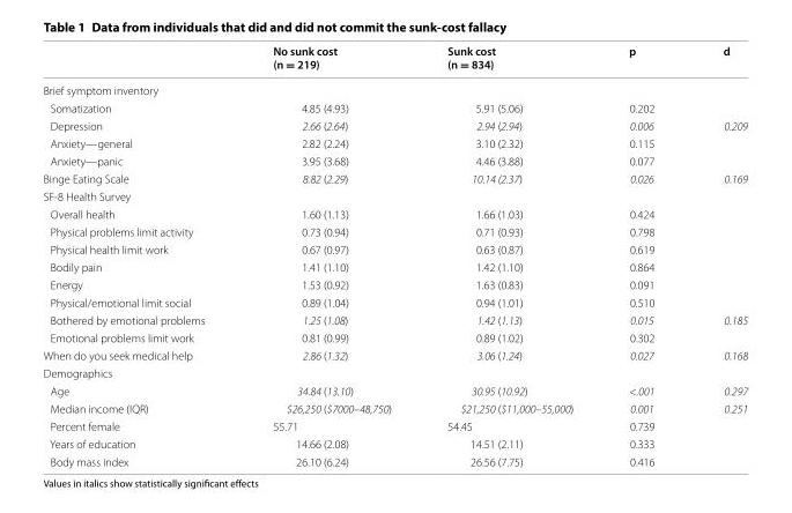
<table><thead><tr><td></td><td>No sunk cost (n = 219)</td><td>Sunk cost (n = 834)</td><td>p</td><td>d</td></tr></thead><tbody><tr><td colspan="5">Brief symptom inventory</td></tr><tr><td>Somatization</td><td>4.85 (4.93)</td><td>5.91 (5.06)</td><td>0.202</td><td></td></tr><tr><td>Depression</td><td>2.66 (2.64)</td><td>2.94 (2.94)</td><td>0.006</td><td>0.209</td></tr><tr><td>Anxiety—general</td><td>2.82 (2.24)</td><td>3.10 (2.32)</td><td>0.115</td><td></td></tr><tr><td>Anxiety—panic</td><td>3.95 (3.68)</td><td>4.46 (3.88)</td><td>0.077</td><td></td></tr><tr><td>Binge Eating Scale</td><td>8.82 (2.29)</td><td>10.14 (2.37)</td><td>0.026</td><td>0.169</td></tr><tr><td colspan="5">SF-8 Health Survey</td></tr><tr><td>Overall health</td><td>1.60 (1.13)</td><td>1.66 (1.03)</td><td>0.424</td><td></td></tr><tr><td>Physical problems limit activity</td><td>0.73 (0.94)</td><td>0.71 (0.93)</td><td>0.798</td><td></td></tr><tr><td>Physical health limit work</td><td>0.67 (0.97)</td><td>0.63 (0.87)</td><td>0.619</td><td></td></tr><tr><td>Bodily pain</td><td>1.41 (1.10)</td><td>1.42 (1.10)</td><td>0.864</td><td></td></tr><tr><td>Energy</td><td>1.53 (0.92)</td><td>1.63 (0.83)</td><td>0.091</td><td></td></tr><tr><td>Physical/emotional limit social</td><td>0.89 (1.04)</td><td>0.94 (1.01)</td><td>0.510</td><td></td></tr><tr><td>Bothered by emotional problems</td><td>1.25 (1.08)</td><td>1.42 (1.13)</td><td>0.015</td><td>0.185</td></tr><tr><td>Emotional problems limit work</td><td>0.81 (0.99)</td><td>0.89 (1.02)</td><td>0.302</td><td></td></tr><tr><td>When do you seek medical help</td><td>2.86 (1.32)</td><td>3.06 (1.24)</td><td>0.027</td><td>0.168</td></tr><tr><td colspan="5">Demographics</td></tr><tr><td>Age</td><td>34.84 (13.10)</td><td>30.95 (10.92)</td><td>&lt;.001</td><td>0.297</td></tr><tr><td>Median income (IQR)</td><td>$26,250 ($7000–48,750)</td><td>$21,250 ($11,000–55,000)</td><td>0.001</td><td>0.251</td></tr><tr><td>Percent female</td><td>55.71</td><td>54.45</td><td>0.739</td><td></td></tr><tr><td>Years of education</td><td>14.66 (2.08)</td><td>14.51 (2.11)</td><td>0.333</td><td></td></tr><tr><td>Body mass index</td><td>26.10 (6.24)</td><td>26.56 (7.75)</td><td>0.416</td><td></td></tr></tbody></table>